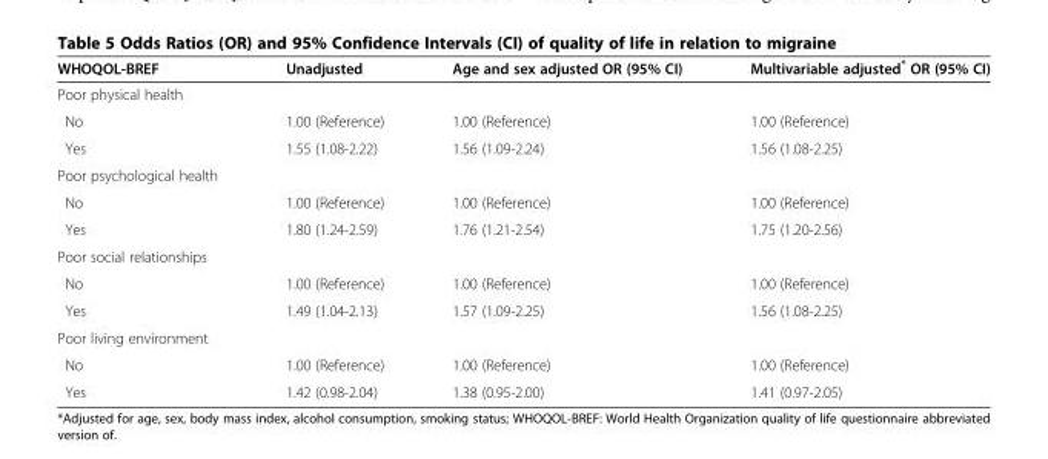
<table><thead><tr><td>WHOQOL-BREF</td><td>Unadjusted</td><td>Age and sex adjusted OR (95% CI)</td><td>Multivariable adjusted* OR (95% CI)</td></tr></thead><tbody><tr><td colspan="4">Poor physical health</td></tr><tr><td>No</td><td>1.00 (Reference)</td><td>1.00 (Reference)</td><td>1.00 (Reference)</td></tr><tr><td>Yes</td><td>1.55 (1.08-2.22)</td><td>1.56 (1.09-2.24)</td><td>1.56 (1.08-2.25)</td></tr><tr><td colspan="4">Poor psychological health</td></tr><tr><td>No</td><td>1.00 (Reference)</td><td>1.00 (Reference)</td><td>1.00 (Reference)</td></tr><tr><td>Yes</td><td>1.80 (1.24-2.59)</td><td>1.76 (1.21-2.54)</td><td>1.75 (1.20-2.56)</td></tr><tr><td colspan="4">Poor social relationships</td></tr><tr><td>No</td><td>1.00 (Reference)</td><td>1.00 (Reference)</td><td>1.00 (Reference)</td></tr><tr><td>Yes</td><td>1.49 (1.04-2.13)</td><td>1.57 (1.09-2.25)</td><td>1.56 (1.08-2.25)</td></tr><tr><td colspan="4">Poor living environment</td></tr><tr><td>No</td><td>1.00 (Reference)</td><td>1.00 (Reference)</td><td>1.00 (Reference)</td></tr><tr><td>Yes</td><td>1.42 (0.98-2.04)</td><td>1.38 (0.95-2.00)</td><td>1.41 (0.97-2.05)</td></tr></tbody></table>